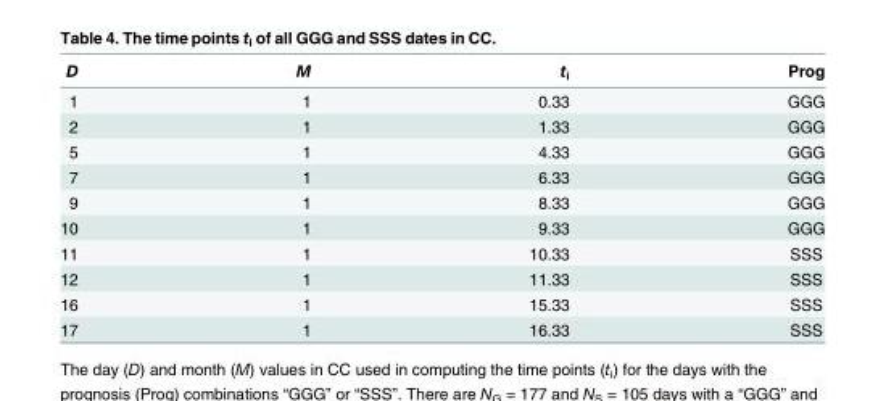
<table><thead><tr><td>D</td><td>M</td><td>t<sub>i</sub></td><td>Prog</td></tr></thead><tbody><tr><td>1</td><td>1</td><td>0.33</td><td>GGG</td></tr><tr><td>2</td><td>1</td><td>1.33</td><td>GGG</td></tr><tr><td>5</td><td>1</td><td>4.33</td><td>GGG</td></tr><tr><td>7</td><td>1</td><td>6.33</td><td>GGG</td></tr><tr><td>9</td><td>1</td><td>8.33</td><td>GGG</td></tr><tr><td>10</td><td>1</td><td>9.33</td><td>GGG</td></tr><tr><td>11</td><td>1</td><td>10.33</td><td>SSS</td></tr><tr><td>12</td><td>1</td><td>11.33</td><td>SSS</td></tr><tr><td>16</td><td>1</td><td>15.33</td><td>SSS</td></tr><tr><td>17</td><td>1</td><td>16.33</td><td>SSS</td></tr></tbody></table>